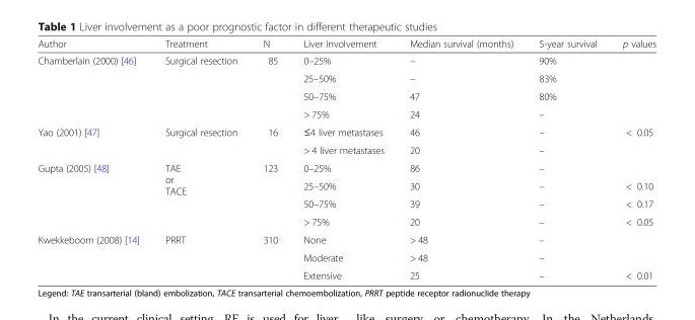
<table><thead><tr><td>Author</td><td>Treatment</td><td>N</td><td>Liver involvement</td><td>Median survival (months)</td><td>5-year survival</td><td>p values</td></tr></thead><tbody><tr><td rowspan="4">Chamberlain (2000) [46]</td><td rowspan="4">Surgical resection</td><td rowspan="4">85</td><td>0–25%</td><td>–</td><td>90%</td><td rowspan="4"></td></tr><tr><td>25–50%</td><td>–</td><td>83%</td></tr><tr><td>50–75%</td><td>47</td><td>80%</td></tr><tr><td>&gt; 75%</td><td>24</td><td>–</td></tr><tr><td rowspan="2">Yao (2001) [47]</td><td rowspan="2">Surgical resection</td><td rowspan="2">16</td><td>≤4 liver metastases</td><td>46</td><td>–</td><td rowspan="2">&lt; 0.05</td></tr><tr><td>&gt; 4 liver metastases</td><td>20</td><td>–</td></tr><tr><td rowspan="4">Gupta (2005) [48]</td><td rowspan="4">TAE or TACE</td><td rowspan="4">123</td><td>0–25%</td><td>86</td><td>–</td><td></td></tr><tr><td>25–50%</td><td>30</td><td>–</td><td>&lt; 0.10</td></tr><tr><td>50–75%</td><td>39</td><td>–</td><td>&lt; 0.17</td></tr><tr><td>&gt; 75%</td><td>20</td><td>–</td><td>&lt; 0.05</td></tr><tr><td rowspan="3">Kwekkeboom (2008) [14]</td><td rowspan="3">PRRT</td><td rowspan="3">310</td><td>None</td><td>&gt; 48</td><td>–</td><td></td></tr><tr><td>Moderate</td><td>&gt; 48</td><td>–</td><td></td></tr><tr><td>Extensive</td><td>25</td><td>–</td><td>&lt; 0.01</td></tr></tbody></table>